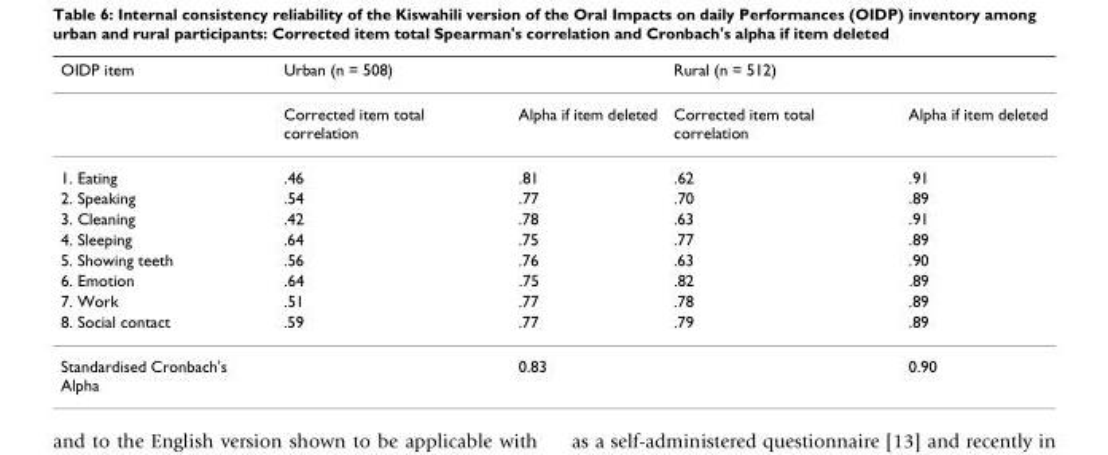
<table><thead><tr><td rowspan="2">OIDP item</td><td colspan="2">Urban (n = 508)</td><td colspan="2">Rural (n = 512)</td></tr><tr><td>Corrected item total correlation</td><td>Alpha if item deleted</td><td>Corrected item total correlation</td><td>Alpha if item deleted</td></tr></thead><tbody><tr><td>1. Eating</td><td>.46</td><td>.81</td><td>.62</td><td>.91</td></tr><tr><td>2. Speaking</td><td>.54</td><td>.77</td><td>.70</td><td>.89</td></tr><tr><td>3. Cleaning</td><td>.42</td><td>.78</td><td>.63</td><td>.91</td></tr><tr><td>4. Sleeping</td><td>.64</td><td>.75</td><td>.77</td><td>.89</td></tr><tr><td>5. Showing teeth</td><td>.56</td><td>.76</td><td>.63</td><td>.90</td></tr><tr><td>6. Emotion</td><td>.64</td><td>.75</td><td>.82</td><td>.89</td></tr><tr><td>7. Work</td><td>.51</td><td>.77</td><td>.78</td><td>.89</td></tr><tr><td>8. Social contact</td><td>.59</td><td>.77</td><td>.79</td><td>.89</td></tr><tr><td>Standardised Cronbach&#x27;s Alpha</td><td></td><td>0.83</td><td></td><td>0.90</td></tr></tbody></table>